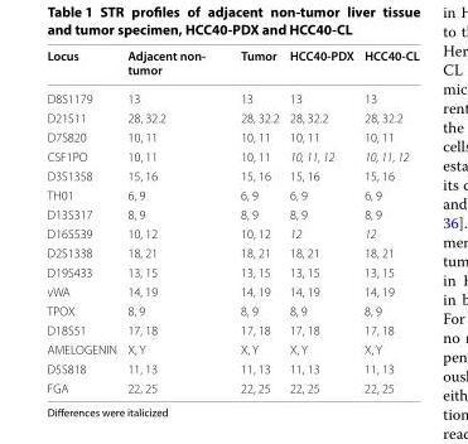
<table><thead><tr><td>Locus</td><td>Adjacent non‑ tumor</td><td>Tumor</td><td>HCC40‑PDX</td><td>HCC40‑CL</td></tr></thead><tbody><tr><td>D8S1179</td><td>13</td><td>13</td><td>13</td><td>13</td></tr><tr><td>D21S11</td><td>28, 32.2</td><td>28, 32.2</td><td>28, 32.2</td><td>28, 32.2</td></tr><tr><td>D7S820</td><td>10, 11</td><td>10, 11</td><td>10, 11</td><td>10, 11</td></tr><tr><td>CSF1PO</td><td>10, 11</td><td>10, 11</td><td>10, 11, 12</td><td>10, 11, 12</td></tr><tr><td>D3S1358</td><td>15, 16</td><td>15, 16</td><td>15, 16</td><td>15, 16</td></tr><tr><td>TH01</td><td>6, 9</td><td>6, 9</td><td>6, 9</td><td>6, 9</td></tr><tr><td>D13S317</td><td>8, 9</td><td>8, 9</td><td>8, 9</td><td>8, 9</td></tr><tr><td>D16S539</td><td>10, 12</td><td>10, 12</td><td>12</td><td>12</td></tr><tr><td>D2S1338</td><td>18, 21</td><td>18, 21</td><td>18, 21</td><td>18, 21</td></tr><tr><td>D19S433</td><td>13, 15</td><td>13, 15</td><td>13, 15</td><td>13, 15</td></tr><tr><td>vWA</td><td>14, 19</td><td>14, 19</td><td>14, 19</td><td>14, 19</td></tr><tr><td>TPOX</td><td>8, 9</td><td>8, 9</td><td>8, 9</td><td>8, 9</td></tr><tr><td>D18S51</td><td>17, 18</td><td>17, 18</td><td>17, 18</td><td>17, 18</td></tr><tr><td>AMELOGENIN</td><td>X, Y</td><td>X, Y</td><td>X, Y</td><td>X, Y</td></tr><tr><td>D5S818</td><td>11, 13</td><td>11, 13</td><td>11, 13</td><td>11, 13</td></tr><tr><td>FGA</td><td>22, 25</td><td>22, 25</td><td>22, 25</td><td>22, 25</td></tr></tbody></table>